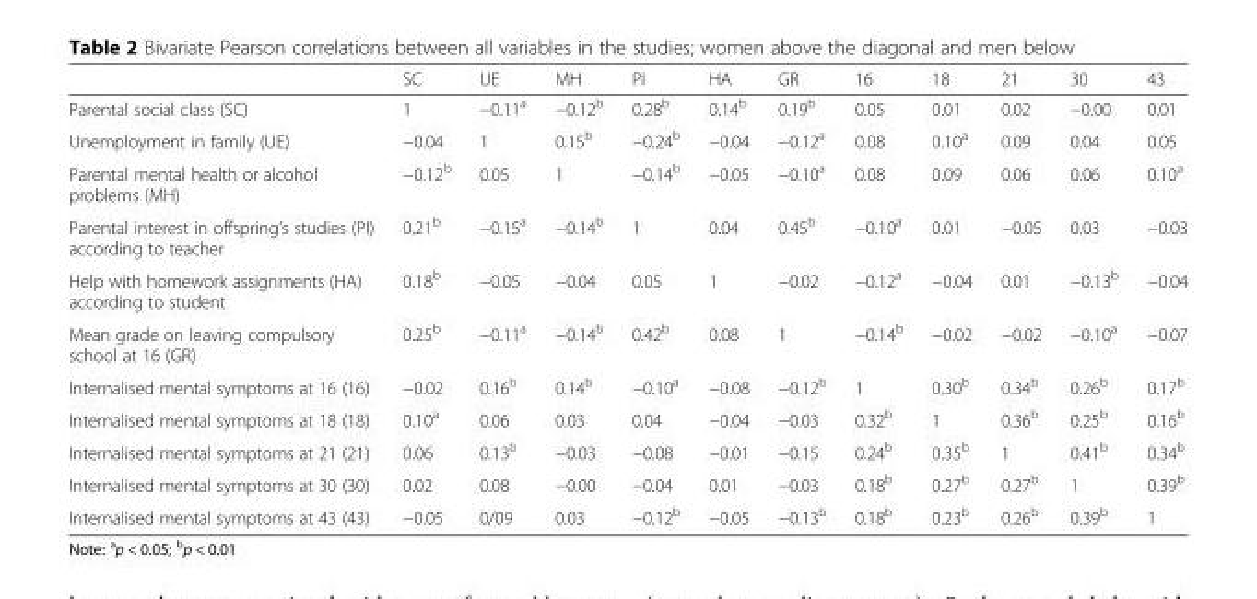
<table><thead><tr><td></td><td>SC</td><td>UE</td><td>MH</td><td>PI</td><td>HA</td><td>GR</td><td>16</td><td>18</td><td>21</td><td>30</td><td>43</td></tr></thead><tbody><tr><td>Parental social class (SC)</td><td>1</td><td>−0.11<sup>a</sup></td><td>−0.12<sup>b</sup></td><td>0.28<sup>b</sup></td><td>0.14<sup>b</sup></td><td>0.19<sup>b</sup></td><td>0.05</td><td>0.01</td><td>0.02</td><td>−0.00</td><td>0.01</td></tr><tr><td>Unemployment in family (UE)</td><td>−0.04</td><td>1</td><td>0.15<sup>b</sup></td><td>−0.24<sup>b</sup></td><td>−0.04</td><td>−0.12<sup>a</sup></td><td>0.08</td><td>0.10<sup>a</sup></td><td>0.09</td><td>0.04</td><td>0.05</td></tr><tr><td>Parental mental health or alcohol problems (MH)</td><td>−0.12<sup>b</sup></td><td>0.05</td><td>1</td><td>−0.14<sup>b</sup></td><td>−0.05</td><td>−0.10<sup>a</sup></td><td>0.08</td><td>0.09</td><td>0.06</td><td>0.06</td><td>0.10<sup>a</sup></td></tr><tr><td>Parental interest in offspring’s studies (PI) according to teacher</td><td>0.21<sup>b</sup></td><td>−0.15<sup>a</sup></td><td>−0.14<sup>b</sup></td><td>1</td><td>0.04</td><td>0.45<sup>b</sup></td><td>−0.10<sup>a</sup></td><td>0.01</td><td>−0.05</td><td>0.03</td><td>−0.03</td></tr><tr><td>Help with homework assignments (HA) according to student</td><td>0.18<sup>b</sup></td><td>−0.05</td><td>−0.04</td><td>0.05</td><td>1</td><td>−0.02</td><td>−0.12<sup>a</sup></td><td>−0.04</td><td>0.01</td><td>−0.13<sup>b</sup></td><td>−0.04</td></tr><tr><td>Mean grade on leaving compulsory school at 16 (GR)</td><td>0.25<sup>b</sup></td><td>−0.11<sup>a</sup></td><td>−0.14<sup>b</sup></td><td>0.42<sup>b</sup></td><td>0.08</td><td>1</td><td>−0.14<sup>b</sup></td><td>−0.02</td><td>−0.02</td><td>−0.10<sup>a</sup></td><td>−0.07</td></tr><tr><td>Internalised mental symptoms at 16 (16)</td><td>−0.02</td><td>0.16<sup>b</sup></td><td>0.14<sup>b</sup></td><td>−0.10<sup>a</sup></td><td>−0.08</td><td>−0.12<sup>b</sup></td><td>1</td><td>0.30<sup>b</sup></td><td>0.34<sup>b</sup></td><td>0.26<sup>b</sup></td><td>0.17<sup>b</sup></td></tr><tr><td>Internalised mental symptoms at 18 (18)</td><td>0.10<sup>a</sup></td><td>0.06</td><td>0.03</td><td>0.04</td><td>−0.04</td><td>−0.03</td><td>0.32<sup>b</sup></td><td>1</td><td>0.36<sup>b</sup></td><td>0.25<sup>b</sup></td><td>0.16<sup>b</sup></td></tr><tr><td>Internalised mental symptoms at 21 (21)</td><td>0.06</td><td>0.13<sup>b</sup></td><td>−0.03</td><td>−0.08</td><td>−0.01</td><td>−0.15</td><td>0.24<sup>b</sup></td><td>0.35<sup>b</sup></td><td>1</td><td>0.41<sup>b</sup></td><td>0.34<sup>b</sup></td></tr><tr><td>Internalised mental symptoms at 30 (30)</td><td>0.02</td><td>0.08</td><td>−0.00</td><td>−0.04</td><td>0.01</td><td>−0.03</td><td>0.18<sup>b</sup></td><td>0.27<sup>b</sup></td><td>0.27<sup>b</sup></td><td>1</td><td>0.39<sup>b</sup></td></tr><tr><td>Internalised mental symptoms at 43 (43)</td><td>−0.05</td><td>0/09</td><td>0.03</td><td>−0.12<sup>b</sup></td><td>−0.05</td><td>−0.13<sup>b</sup></td><td>0.18<sup>b</sup></td><td>0.23<sup>b</sup></td><td>0.26<sup>b</sup></td><td>0.39<sup>b</sup></td><td>1</td></tr></tbody></table>